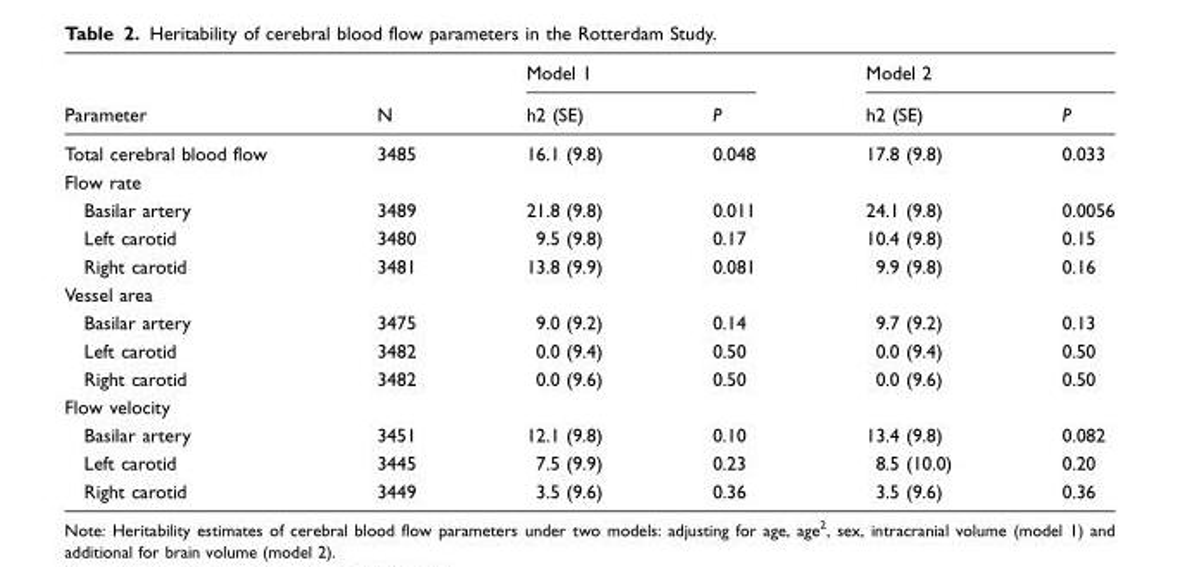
<table><thead><tr><td rowspan="2">Parameter</td><td rowspan="2">N</td><td colspan="2">Model 1</td><td colspan="2">Model 2</td></tr><tr><td>h2 (SE)</td><td>P</td><td>h2 (SE)</td><td>P</td></tr></thead><tbody><tr><td>Total cerebral blood flow</td><td>3485</td><td>16.1 (9.8)</td><td>0.048</td><td>17.8 (9.8)</td><td>0.033</td></tr><tr><td colspan="6">Flow rate</td></tr><tr><td>Basilar artery</td><td>3489</td><td>21.8 (9.8)</td><td>0.011</td><td>24.1 (9.8)</td><td>0.0056</td></tr><tr><td>Left carotid</td><td>3480</td><td>9.5 (9.8)</td><td>0.17</td><td>10.4 (9.8)</td><td>0.15</td></tr><tr><td>Right carotid</td><td>3481</td><td>13.8 (9.9)</td><td>0.081</td><td>9.9 (9.8)</td><td>0.16</td></tr><tr><td colspan="6">Vessel area</td></tr><tr><td>Basilar artery</td><td>3475</td><td>9.0 (9.2)</td><td>0.14</td><td>9.7 (9.2)</td><td>0.13</td></tr><tr><td>Left carotid</td><td>3482</td><td>0.0 (9.4)</td><td>0.50</td><td>0.0 (9.4)</td><td>0.50</td></tr><tr><td>Right carotid</td><td>3482</td><td>0.0 (9.6)</td><td>0.50</td><td>0.0 (9.6)</td><td>0.50</td></tr><tr><td colspan="6">Flow velocity</td></tr><tr><td>Basilar artery</td><td>3451</td><td>12.1 (9.8)</td><td>0.10</td><td>13.4 (9.8)</td><td>0.082</td></tr><tr><td>Left carotid</td><td>3445</td><td>7.5 (9.9)</td><td>0.23</td><td>8.5 (10.0)</td><td>0.20</td></tr><tr><td>Right carotid</td><td>3449</td><td>3.5 (9.6)</td><td>0.36</td><td>3.5 (9.6)</td><td>0.36</td></tr></tbody></table>